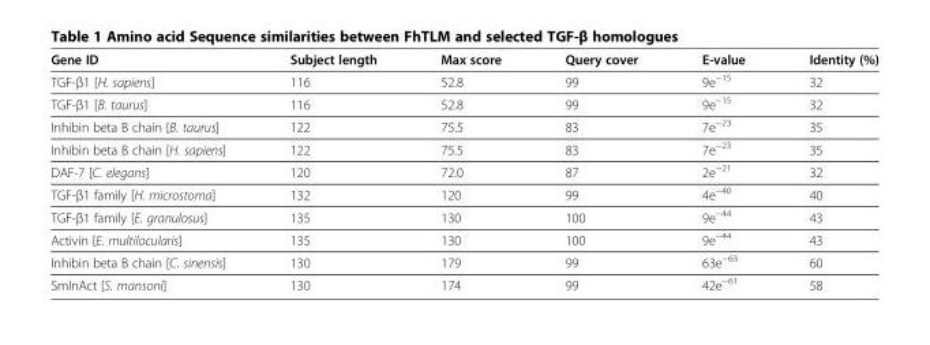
<table><thead><tr><td>Gene ID</td><td>Subject length</td><td>Max score</td><td>Query cover</td><td>E-value</td><td>Identity (%)</td></tr></thead><tbody><tr><td>TGF-β1 [H. sapiens]</td><td>116</td><td>52.8</td><td>99</td><td>9e<sup>−15</sup></td><td>32</td></tr><tr><td>TGF-β1 [B. taurus]</td><td>116</td><td>52.8</td><td>99</td><td>9e<sup>−15</sup></td><td>32</td></tr><tr><td>Inhibin beta B chain [B. taurus]</td><td>122</td><td>75.5</td><td>83</td><td>7e<sup>−23</sup></td><td>35</td></tr><tr><td>Inhibin beta B chain [H. sapiens]</td><td>122</td><td>75.5</td><td>83</td><td>7e<sup>−23</sup></td><td>35</td></tr><tr><td>DAF-7 [C. elegans]</td><td>120</td><td>72.0</td><td>87</td><td>2e<sup>−21</sup></td><td>32</td></tr><tr><td>TGF-β1 family [H. microstoma]</td><td>132</td><td>120</td><td>99</td><td>4e<sup>−40</sup></td><td>40</td></tr><tr><td>TGF-β1 family [E. granulosus]</td><td>135</td><td>130</td><td>100</td><td>9e<sup>−44</sup></td><td>43</td></tr><tr><td>Activin [E. multilocularis]</td><td>135</td><td>130</td><td>100</td><td>9e<sup>−44</sup></td><td>43</td></tr><tr><td>Inhibin beta B chain [C. sinensis]</td><td>130</td><td>179</td><td>99</td><td>63e<sup>−63</sup></td><td>60</td></tr><tr><td>SmInAct [S. mansoni]</td><td>130</td><td>174</td><td>99</td><td>42e<sup>−61</sup></td><td>58</td></tr></tbody></table>